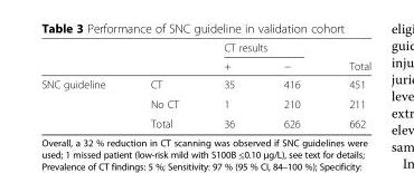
<table><thead><tr><td rowspan="2"></td><td rowspan="2"></td><td colspan="2">CT results</td><td rowspan="2">Total</td></tr><tr><td>+</td><td>−</td></tr></thead><tbody><tr><td rowspan="3">SNC guideline</td><td>CT</td><td>35</td><td>416</td><td>451</td></tr><tr><td>No CT</td><td>1</td><td>210</td><td>211</td></tr><tr><td>Total</td><td>36</td><td>626</td><td>662</td></tr></tbody></table>